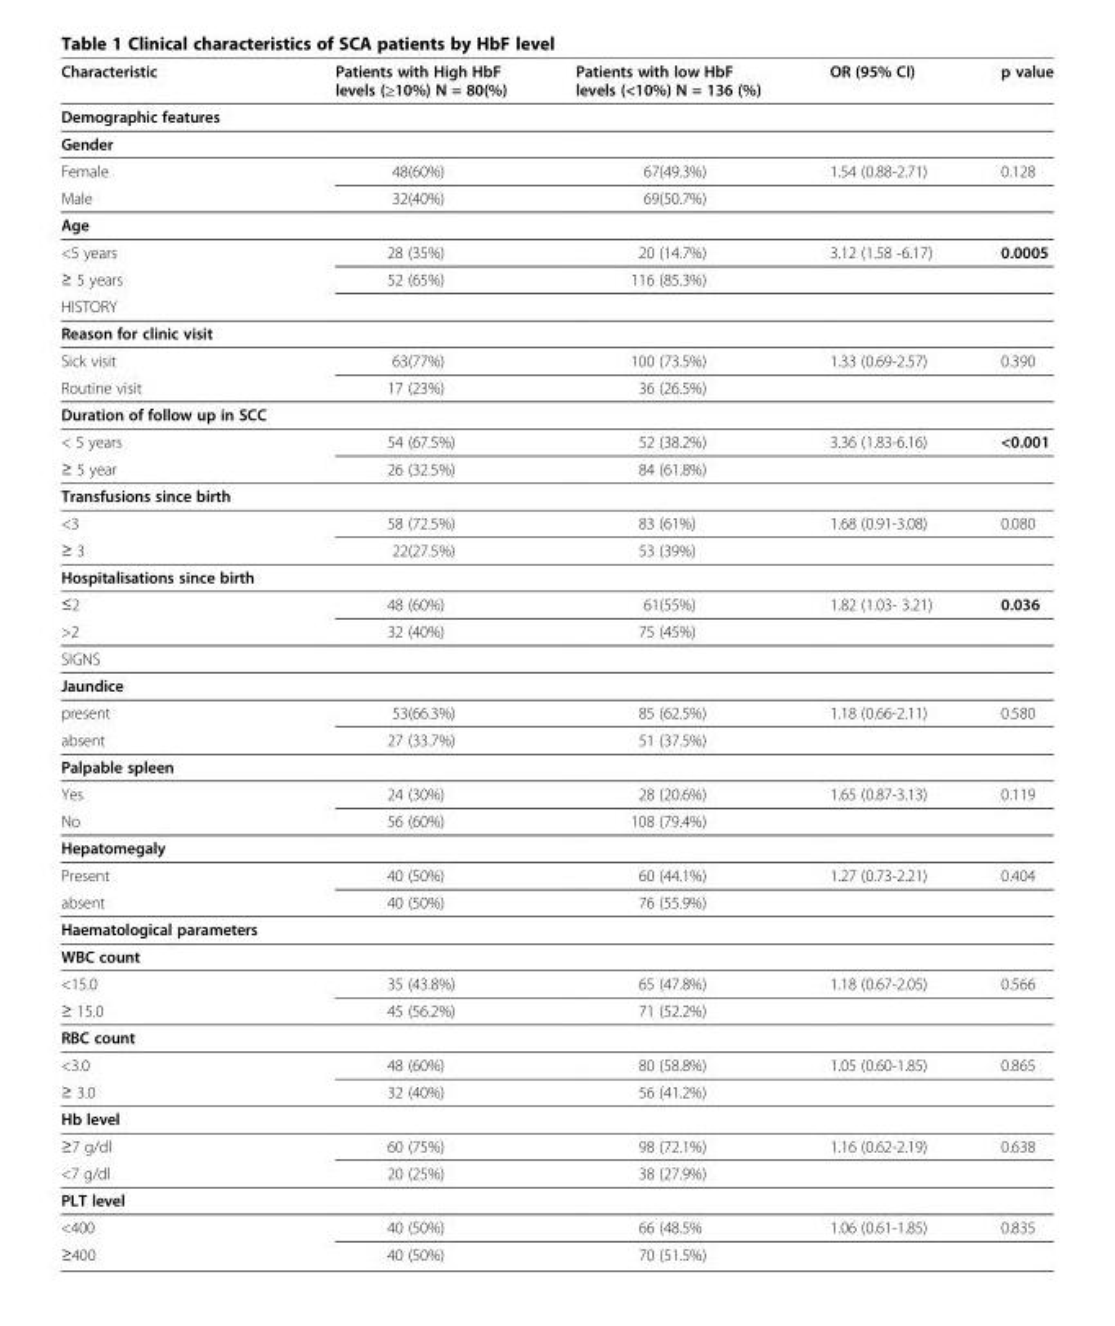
<table><thead><tr><td>Characteristic</td><td>Patients with High HbF levels (≥10%) N = 80(%)</td><td>Patients with low HbF levels (&lt;10%) N = 136 (%)</td><td>OR (95% CI)</td><td>p value</td></tr></thead><tbody><tr><td colspan="5">Demographic features</td></tr><tr><td colspan="5">Gender</td></tr><tr><td>Female</td><td>48(60%)</td><td>67(49.3%)</td><td>1.54 (0.88-2.71)</td><td>0.128</td></tr><tr><td>Male</td><td>32(40%)</td><td>69(50.7%)</td><td></td><td></td></tr><tr><td colspan="5">Age</td></tr><tr><td>&lt;5 years</td><td>28 (35%)</td><td>20 (14.7%)</td><td>3.12 (1.58 -6.17)</td><td>0.0005</td></tr><tr><td>≥ 5 years</td><td>52 (65%)</td><td>116 (85.3%)</td><td></td><td></td></tr><tr><td colspan="5">HISTORY</td></tr><tr><td colspan="5">Reason for clinic visit</td></tr><tr><td>Sick visit</td><td>63(77%)</td><td>100 (73.5%)</td><td>1.33 (0.69-2.57)</td><td>0.390</td></tr><tr><td>Routine visit</td><td>17 (23%)</td><td>36 (26.5%)</td><td></td><td></td></tr><tr><td colspan="5">Duration of follow up in SCC</td></tr><tr><td>&lt; 5 years</td><td>54 (67.5%)</td><td>52 (38.2%)</td><td>3.36 (1.83-6.16)</td><td>&lt;0.001</td></tr><tr><td>≥ 5 year</td><td>26 (32.5%)</td><td>84 (61.8%)</td><td></td><td></td></tr><tr><td colspan="5">Transfusions since birth</td></tr><tr><td>&lt;3</td><td>58 (72.5%)</td><td>83 (61%)</td><td>1.68 (0.91-3.08)</td><td>0.080</td></tr><tr><td>≥ 3</td><td>22(27.5%)</td><td>53 (39%)</td><td></td><td></td></tr><tr><td colspan="5">Hospitalisations since birth</td></tr><tr><td>≤2</td><td>48 (60%)</td><td>61(55%)</td><td>1.82 (1.03- 3.21)</td><td>0.036</td></tr><tr><td>&gt;2</td><td>32 (40%)</td><td>75 (45%)</td><td></td><td></td></tr><tr><td colspan="5">SIGNS</td></tr><tr><td colspan="5">Jaundice</td></tr><tr><td>present</td><td>53(66.3%)</td><td>85 (62.5%)</td><td>1.18 (0.66-2.11)</td><td>0.580</td></tr><tr><td>absent</td><td>27 (33.7%)</td><td>51 (37.5%)</td><td></td><td></td></tr><tr><td colspan="5">Palpable spleen</td></tr><tr><td>Yes</td><td>24 (30%)</td><td>28 (20.6%)</td><td>1.65 (0.87-3.13)</td><td>0.119</td></tr><tr><td>No</td><td>56 (60%)</td><td>108 (79.4%)</td><td></td><td></td></tr><tr><td colspan="5">Hepatomegaly</td></tr><tr><td>Present</td><td>40 (50%)</td><td>60 (44.1%)</td><td>1.27 (0.73-2.21)</td><td>0.404</td></tr><tr><td>absent</td><td>40 (50%)</td><td>76 (55.9%)</td><td></td><td></td></tr><tr><td colspan="5">Haematological parameters</td></tr><tr><td colspan="5">WBC count</td></tr><tr><td>&lt;15.0</td><td>35 (43.8%)</td><td>65 (47.8%)</td><td>1.18 (0.67-2.05)</td><td>0.566</td></tr><tr><td>≥ 15.0</td><td>45 (56.2%)</td><td>71 (52.2%)</td><td></td><td></td></tr><tr><td colspan="5">RBC count</td></tr><tr><td>&lt;3.0</td><td>48 (60%)</td><td>80 (58.8%)</td><td>1.05 (0.60-1.85)</td><td>0.865</td></tr><tr><td>≥ 3.0</td><td>32 (40%)</td><td>56 (41.2%)</td><td></td><td></td></tr><tr><td colspan="5">Hb level</td></tr><tr><td>≥7 g/dl</td><td>60 (75%)</td><td>98 (72.1%)</td><td>1.16 (0.62-2.19)</td><td>0.638</td></tr><tr><td>&lt;7 g/dl</td><td>20 (25%)</td><td>38 (27.9%)</td><td></td><td></td></tr><tr><td colspan="5">PLT level</td></tr><tr><td>&lt;400</td><td>40 (50%)</td><td>66 (48.5%</td><td>1.06 (0.61-1.85)</td><td>0.835</td></tr><tr><td>≥400</td><td>40 (50%)</td><td>70 (51.5%)</td><td></td><td></td></tr></tbody></table>